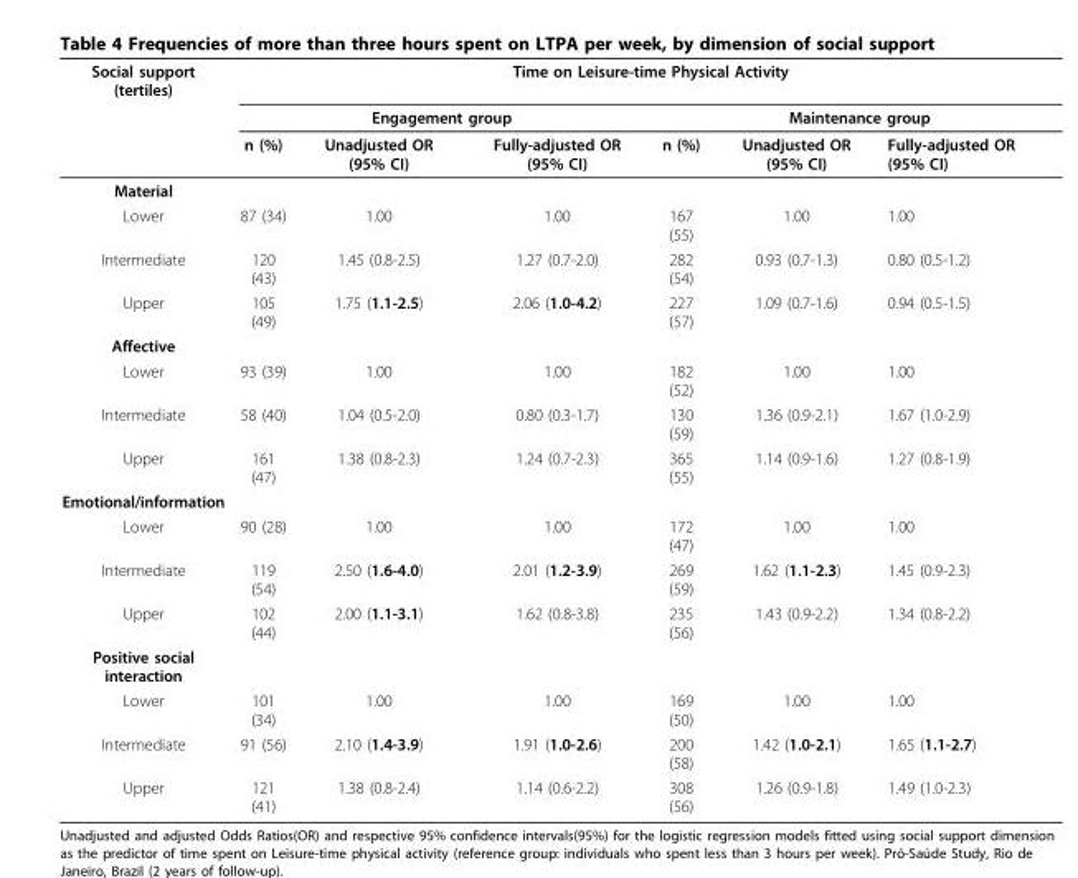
<table><thead><tr><td rowspan="3">Social support (tertiles)</td><td colspan="6">Time on Leisure-time Physical Activity</td></tr><tr><td colspan="3">Engagement group</td><td colspan="3">Maintenance group</td></tr><tr><td>n (%)</td><td>Unadjusted OR (95% CI)</td><td>Fully-adjusted OR (95% CI)</td><td>n (%)</td><td>Unadjusted OR (95% CI)</td><td>Fully-adjusted OR (95% CI)</td></tr></thead><tbody><tr><td colspan="7">Material</td></tr><tr><td>Lower</td><td>87 (34)</td><td>1.00</td><td>1.00</td><td>167 (55)</td><td>1.00</td><td>1.00</td></tr><tr><td>Intermediate</td><td>120 (43)</td><td>1.45 (0.8-2.5)</td><td>1.27 (0.7-2.0)</td><td>282 (54)</td><td>0.93 (0.7-1.3)</td><td>0.80 (0.5-1.2)</td></tr><tr><td>Upper</td><td>105 (49)</td><td>1.75 (1.1-2.5)</td><td>2.06 (1.0-4.2)</td><td>227 (57)</td><td>1.09 (0.7-1.6)</td><td>0.94 (0.5-1.5)</td></tr><tr><td colspan="7">Affective</td></tr><tr><td>Lower</td><td>93 (39)</td><td>1.00</td><td>1.00</td><td>182 (52)</td><td>1.00</td><td>1.00</td></tr><tr><td>Intermediate</td><td>58 (40)</td><td>1.04 (0.5-2.0)</td><td>0.80 (0.3-1.7)</td><td>130 (59)</td><td>1.36 (0.9-2.1)</td><td>1.67 (1.0-2.9)</td></tr><tr><td>Upper</td><td>161 (47)</td><td>1.38 (0.8-2.3)</td><td>1.24 (0.7-2.3)</td><td>365 (55)</td><td>1.14 (0.9-1.6)</td><td>1.27 (0.8-1.9)</td></tr><tr><td colspan="7">Emotional/information</td></tr><tr><td>Lower</td><td>90 (28)</td><td>1.00</td><td>1.00</td><td>172 (47)</td><td>1.00</td><td>1.00</td></tr><tr><td>Intermediate</td><td>119 (54)</td><td>2.50 (1.6-4.0)</td><td>2.01 (1.2-3.9)</td><td>269 (59)</td><td>1.62 (1.1-2.3)</td><td>1.45 (0.9-2.3)</td></tr><tr><td>Upper</td><td>102 (44)</td><td>2.00 (1.1-3.1)</td><td>1.62 (0.8-3.8)</td><td>235 (56)</td><td>1.43 (0.9-2.2)</td><td>1.34 (0.8-2.2)</td></tr><tr><td colspan="7">Positive social interaction</td></tr><tr><td>Lower</td><td>101 (34)</td><td>1.00</td><td>1.00</td><td>169 (50)</td><td>1.00</td><td>1.00</td></tr><tr><td>Intermediate</td><td>91 (56)</td><td>2.10 (1.4-3.9)</td><td>1.91 (1.0-2.6)</td><td>200 (58)</td><td>1.42 (1.0-2.1)</td><td>1.65 (1.1-2.7)</td></tr><tr><td>Upper</td><td>121 (41)</td><td>1.38 (0.8-2.4)</td><td>1.14 (0.6-2.2)</td><td>308 (56)</td><td>1.26 (0.9-1.8)</td><td>1.49 (1.0-2.3)</td></tr></tbody></table>